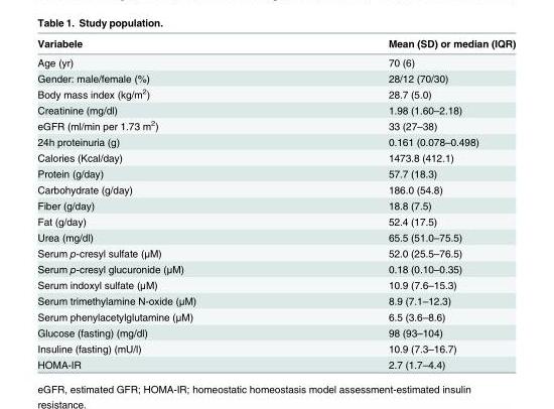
<table><thead><tr><td>Variabele</td><td>Mean (SD) or median (IQR)</td></tr></thead><tbody><tr><td>Age (yr)</td><td>70 (6)</td></tr><tr><td>Gender: male/female (%)</td><td>28/12 (70/30)</td></tr><tr><td>Body mass index (kg/m<sup>2</sup>)</td><td>28.7 (5.0)</td></tr><tr><td>Creatinine (mg/dl)</td><td>1.98 (1.60–2.18)</td></tr><tr><td>eGFR (ml/min per 1.73 m<sup>2</sup>)</td><td>33 (27–38)</td></tr><tr><td>24h proteinuria (g)</td><td>0.161 (0.078–0.498)</td></tr><tr><td>Calories (Kcal/day)</td><td>1473.8 (412.1)</td></tr><tr><td>Protein (g/day)</td><td>57.7 (18.3)</td></tr><tr><td>Carbohydrate (g/day)</td><td>186.0 (54.8)</td></tr><tr><td>Fiber (g/day)</td><td>18.8 (7.5)</td></tr><tr><td>Fat (g/day)</td><td>52.4 (17.5)</td></tr><tr><td>Urea (mg/dl)</td><td>65.5 (51.0–75.5)</td></tr><tr><td>Serum p-cresyl sulfate (μM)</td><td>52.0 (25.5–76.5)</td></tr><tr><td>Serum p-cresyl glucuronide (μM)</td><td>0.18 (0.10–0.35)</td></tr><tr><td>Serum indoxyl sulfate (μM)</td><td>10.9 (7.6–15.3)</td></tr><tr><td>Serum trimethylamine N-oxide (μM)</td><td>8.9 (7.1–12.3)</td></tr><tr><td>Serum phenylacetylglutamine (μM)</td><td>6.5 (3.6–8.6)</td></tr><tr><td>Glucose (fasting) (mg/dl)</td><td>98 (93–104)</td></tr><tr><td>Insuline (fasting) (mU/l)</td><td>10.9 (7.3–16.7)</td></tr><tr><td>HOMA-IR</td><td>2.7 (1.7–4.4)</td></tr></tbody></table>